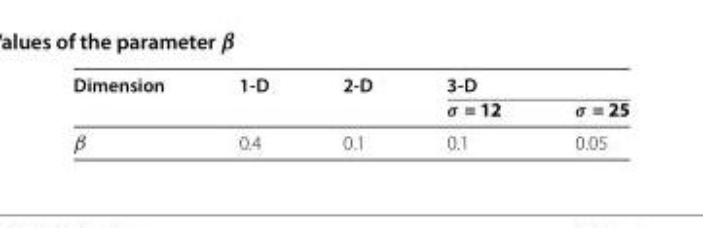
<table><thead><tr><td rowspan="2">Dimension</td><td rowspan="2">1-D</td><td rowspan="2">2-D</td><td colspan="2">3-D</td></tr><tr><td>σ = 12</td><td>σ = 25</td></tr></thead><tbody><tr><td>β</td><td>0.4</td><td>0.1</td><td>0.1</td><td>0.05</td></tr></tbody></table>